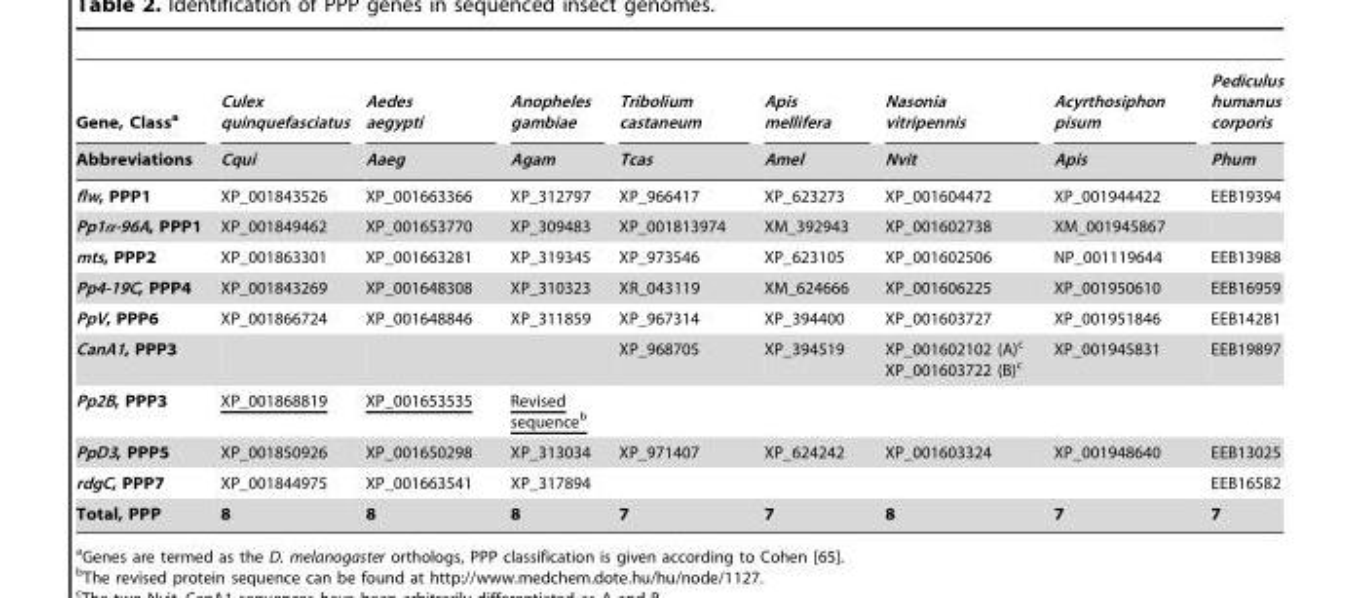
<table><thead><tr><td rowspan="2">Gene, Class<sup>a</sup> Abbreviations</td><td rowspan="2">Culex quinquefasciatus Cqui</td><td rowspan="2">Aedes aegypti Aaeg</td><td rowspan="2">Anopheles gambiae Agam</td><td rowspan="2">Tribolium castaneum Tcas</td><td rowspan="2">Apis mellifera Amel</td><td rowspan="2">Nasonia vitripennis Nvit</td><td rowspan="2">Acyrthosiphon pisum Apis</td><td rowspan="2">Pediculus humanus corporis Phum</td></tr><tr></tr></thead><tbody><tr><td>flw, PPP1</td><td>XP_001843526</td><td>XP_001663366</td><td>XP_312797</td><td>XP_966417</td><td>XP_623273</td><td>XP_001604472</td><td>XP_001944422</td><td>EEB19394</td></tr><tr><td>Pp1α-96A, PPP1</td><td>XP_001849462</td><td>XP_001653770</td><td>XP_309483</td><td>XP_001813974</td><td>XM_392943</td><td>XP_001602738</td><td>XM_001945867</td><td></td></tr><tr><td>mts, PPP2</td><td>XP_001863301</td><td>XP_001663281</td><td>XP_319345</td><td>XP_973546</td><td>XP_623105</td><td>XP_001602506</td><td>NP_001119644</td><td>EEB13988</td></tr><tr><td>Pp4-19C, PPP4</td><td>XP_001843269</td><td>XP_001648308</td><td>XP_310323</td><td>XR_043119</td><td>XM_624666</td><td>XP_001606225</td><td>XP_001950610</td><td>EEB16959</td></tr><tr><td>PpV, PPP6</td><td>XP_001866724</td><td>XP_001648846</td><td>XP_311859</td><td>XP_967314</td><td>XP_394400</td><td>XP_001603727</td><td>XP_001951846</td><td>EEB14281</td></tr><tr><td>CanA1, PPP3</td><td></td><td></td><td></td><td>XP_968705</td><td>XP_394519</td><td>XP_001602102 (A)<sup>c</sup> XP_001603722 (B)<sup>c</sup></td><td>XP_001945831</td><td>EEB19897</td></tr><tr><td>Pp2B, PPP3</td><td>XP_001868819</td><td>XP_001653535</td><td>Revised sequenceb</td><td></td><td></td><td></td><td></td><td></td></tr><tr><td>PpD3, PPP5</td><td>XP_001850926</td><td>XP_001650298</td><td>XP_313034</td><td>XP_971407</td><td>XP_624242</td><td>XP_001603324</td><td>XP_001948640</td><td>EEB13025</td></tr><tr><td>rdgC, PPP7</td><td>XP_001844975</td><td>XP_001663541</td><td>XP_317894</td><td></td><td></td><td></td><td></td><td>EEB16582</td></tr><tr><td>Total, PPP</td><td>8</td><td>8</td><td>8</td><td>7</td><td>7</td><td>8</td><td>7</td><td>7</td></tr></tbody></table>